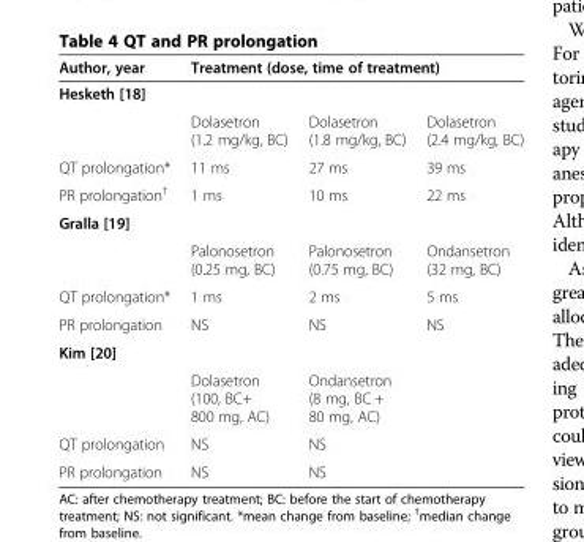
<table><thead><tr><td rowspan="2">Author, year Hesketh [18]</td><td colspan="3">Treatment (dose, time of treatment)</td></tr><tr><td></td><td></td><td></td></tr></thead><tbody><tr><td></td><td>Dolasetron (1.2 mg/kg, BC)</td><td>Dolasetron (1.8 mg/kg, BC)</td><td>Dolasetron (2.4 mg/kg, BC)</td></tr><tr><td>QT prolongation*</td><td>11 ms</td><td>27 ms</td><td>39 ms</td></tr><tr><td>PR prolongation<sup>†</sup></td><td>1 ms</td><td>10 ms</td><td>22 ms</td></tr><tr><td colspan="4">Gralla [19]</td></tr><tr><td></td><td>Palonosetron (0.25 mg, BC)</td><td>Palonosetron (0.75 mg, BC)</td><td>Ondansetron (32 mg, BC)</td></tr><tr><td>QT prolongation*</td><td>1 ms</td><td>2 ms</td><td>5 ms</td></tr><tr><td>PR prolongation</td><td>NS</td><td>NS</td><td>NS</td></tr><tr><td colspan="4">Kim [20]</td></tr><tr><td></td><td>Dolasetron (100, BC+ 800 mg, AC)</td><td>Ondansetron (8 mg, BC + 80 mg, AC)</td><td></td></tr><tr><td>QT prolongation</td><td>NS</td><td>NS</td><td></td></tr><tr><td>PR prolongation</td><td>NS</td><td>NS</td><td></td></tr></tbody></table>